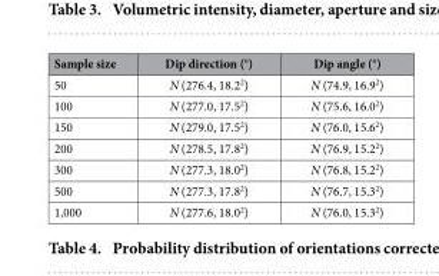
<table><thead><tr><td>Sample size</td><td>Dip direction (°)</td><td>Dip angle (°)</td></tr></thead><tbody><tr><td>50</td><td>N (276.4, 18.2<sup>2</sup>)</td><td>N (74.9, 16.9<sup>2</sup>)</td></tr><tr><td>100</td><td>N (277.0, 17.5<sup>2</sup>)</td><td>N (75.6, 16.0<sup>2</sup>)</td></tr><tr><td>150</td><td>N (279.0, 17.5<sup>2</sup>)</td><td>N (76.0, 15.6<sup>2</sup>)</td></tr><tr><td>200</td><td>N (278.5, 17.8<sup>2</sup>)</td><td>N (76.9, 15.2<sup>2</sup>)</td></tr><tr><td>300</td><td>N (277.3, 18.0<sup>2</sup>)</td><td>N (76.8, 15.2<sup>2</sup>)</td></tr><tr><td>500</td><td>N (277.3, 17.8<sup>2</sup>)</td><td>N (76.7, 15.3<sup>2</sup>)</td></tr><tr><td>1,000</td><td>N (277.6, 18.0<sup>2</sup>)</td><td>N (76.0, 15.3<sup>2</sup>)</td></tr></tbody></table>